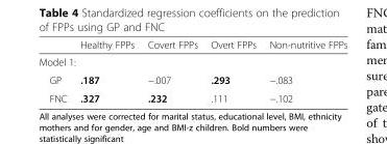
<table><thead><tr><td></td><td>Healthy FPPs</td><td>Covert FPPs</td><td>Overt FPPs</td><td>Non-nutritive FPPs</td></tr></thead><tbody><tr><td colspan="5">Model 1:</td></tr><tr><td>GP</td><td>.187</td><td>−.007</td><td>.293</td><td>−.083</td></tr><tr><td>FNC</td><td>.327</td><td>.232</td><td>.111</td><td>−.102</td></tr></tbody></table>